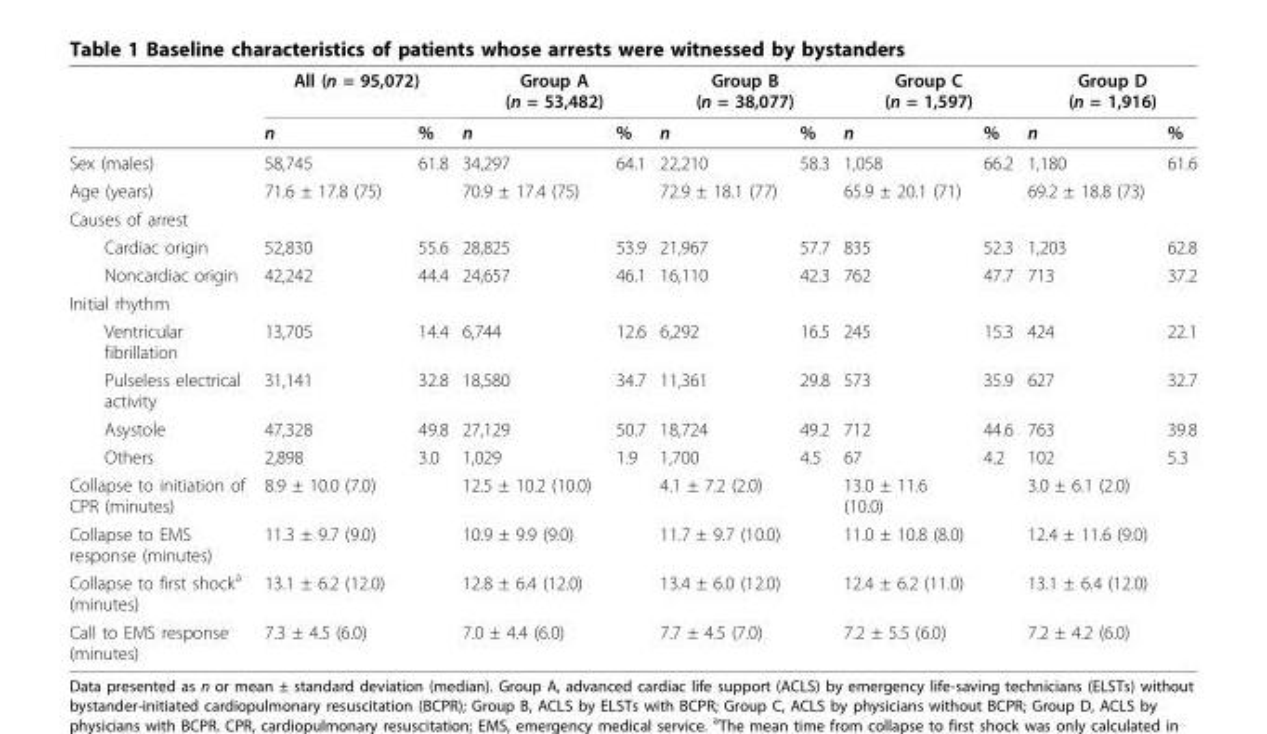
<table><thead><tr><td rowspan="2"></td><td colspan="2">All (n = 95,072)</td><td colspan="2">Group A (n = 53,482)</td><td colspan="2">Group B (n = 38,077)</td><td colspan="2">Group C (n = 1,597)</td><td colspan="2">Group D (n = 1,916)</td></tr><tr><td>n</td><td>%</td><td>n</td><td>%</td><td>n</td><td>%</td><td>n</td><td>%</td><td>n</td><td>%</td></tr></thead><tbody><tr><td>Sex (males)</td><td>58,745</td><td>61.8</td><td>34,297</td><td>64.1</td><td>22,210</td><td>58.3</td><td>1,058</td><td>66.2</td><td>1,180</td><td>61.6</td></tr><tr><td>Age (years)</td><td>71.6 ± 17.8 (75)</td><td></td><td>70.9 ± 17.4 (75)</td><td></td><td>72.9 ± 18.1 (77)</td><td></td><td>65.9 ± 20.1 (71)</td><td></td><td>69.2 ± 18.8 (73)</td><td></td></tr><tr><td colspan="11">Causes of arrest</td></tr><tr><td>Cardiac origin</td><td>52,830</td><td>55.6</td><td>28,825</td><td>53.9</td><td>21,967</td><td>57.7</td><td>835</td><td>52.3</td><td>1,203</td><td>62.8</td></tr><tr><td>Noncardiac origin</td><td>42,242</td><td>44.4</td><td>24,657</td><td>46.1</td><td>16,110</td><td>42.3</td><td>762</td><td>47.7</td><td>713</td><td>37.2</td></tr><tr><td colspan="11">Initial rhythm</td></tr><tr><td>Ventricular fibrillation</td><td>13,705</td><td>14.4</td><td>6,744</td><td>12.6</td><td>6,292</td><td>16.5</td><td>245</td><td>15.3</td><td>424</td><td>22.1</td></tr><tr><td>Pulseless electrical activity</td><td>31,141</td><td>32.8</td><td>18,580</td><td>34.7</td><td>11,361</td><td>29.8</td><td>573</td><td>35.9</td><td>627</td><td>32.7</td></tr><tr><td>Asystole</td><td>47,328</td><td>49.8</td><td>27,129</td><td>50.7</td><td>18,724</td><td>49.2</td><td>712</td><td>44.6</td><td>763</td><td>39.8</td></tr><tr><td>Others</td><td>2,898</td><td>3.0</td><td>1,029</td><td>1.9</td><td>1,700</td><td>4.5</td><td>67</td><td>4.2</td><td>102</td><td>5.3</td></tr><tr><td>Collapse to initiation of CPR (minutes)</td><td>8.9 ± 10.0 (7.0)</td><td></td><td>12.5 ± 10.2 (10.0)</td><td></td><td>4.1 ± 7.2 (2.0)</td><td></td><td>13.0 ± 11.6 (10.0)</td><td></td><td>3.0 ± 6.1 (2.0)</td><td></td></tr><tr><td>Collapse to EMS response (minutes)</td><td>11.3 ± 9.7 (9.0)</td><td></td><td>10.9 ± 9.9 (9.0)</td><td></td><td>11.7 ± 9.7 (10.0)</td><td></td><td>11.0 ± 10.8 (8.0)</td><td></td><td>12.4 ± 11.6 (9.0)</td><td></td></tr><tr><td>Collapse to first shock<sup>a</sup> (minutes)</td><td>13.1 ± 6.2 (12.0)</td><td></td><td>12.8 ± 6.4 (12.0)</td><td></td><td>13.4 ± 6.0 (12.0)</td><td></td><td>12.4 ± 6.2 (11.0)</td><td></td><td>13.1 ± 6.4 (12.0)</td><td></td></tr><tr><td>Call to EMS response (minutes)</td><td>7.3 ± 4.5 (6.0)</td><td></td><td>7.0 ± 4.4 (6.0)</td><td></td><td>7.7 ± 4.5 (7.0)</td><td></td><td>7.2 ± 5.5 (6.0)</td><td></td><td>7.2 ± 4.2 (6.0)</td><td></td></tr></tbody></table>